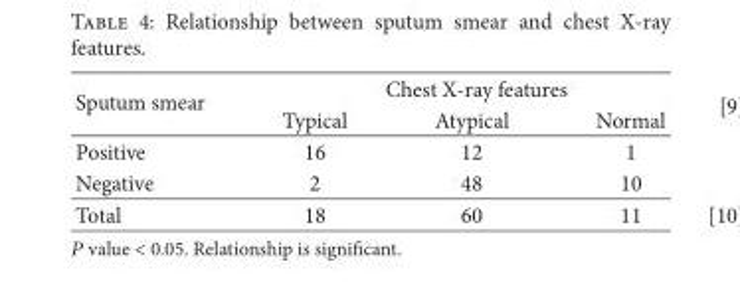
<table><thead><tr><td rowspan="2">Sputum smear</td><td colspan="3">Chest X-ray features</td></tr><tr><td>Typical</td><td>Atypical</td><td>Normal</td></tr></thead><tbody><tr><td>Positive</td><td>16</td><td>12</td><td>1</td></tr><tr><td>Negative</td><td>2</td><td>48</td><td>10</td></tr><tr><td>Total</td><td>18</td><td>60</td><td>11</td></tr></tbody></table>